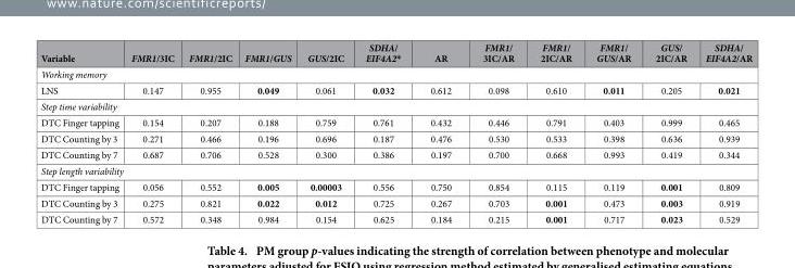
<table><thead><tr><td>Variable</td><td>FMR1/3IC</td><td>FMR1/2IC</td><td>FMR1/GUS</td><td>GUS/2IC</td><td>SDHA/ EIF4A2*</td><td>AR</td><td>FMR1/ 3IC/AR</td><td>FMR1/ 2IC/AR</td><td>FMR1/ GUS/AR</td><td>GUS/ 2IC/AR</td><td>SDHA/ EIF4A2/AR</td></tr></thead><tbody><tr><td colspan="12">Working memory</td></tr><tr><td>LNS</td><td>0.147</td><td>0.955</td><td>0.049</td><td>0.061</td><td>0.032</td><td>0.612</td><td>0.098</td><td>0.610</td><td>0.011</td><td>0.205</td><td>0.021</td></tr><tr><td colspan="12">Step time variability</td></tr><tr><td>DTC Finger tapping</td><td>0.154</td><td>0.207</td><td>0.188</td><td>0.759</td><td>0.761</td><td>0.432</td><td>0.446</td><td>0.791</td><td>0.403</td><td>0.999</td><td>0.465</td></tr><tr><td>DTC Counting by 3</td><td>0.271</td><td>0.466</td><td>0.196</td><td>0.696</td><td>0.187</td><td>0.476</td><td>0.530</td><td>0.533</td><td>0.398</td><td>0.636</td><td>0.939</td></tr><tr><td>DTC Counting by 7</td><td>0.687</td><td>0.706</td><td>0.528</td><td>0.300</td><td>0.386</td><td>0.197</td><td>0.700</td><td>0.668</td><td>0.993</td><td>0.419</td><td>0.344</td></tr><tr><td colspan="12">Step length variability</td></tr><tr><td>DTC Finger tapping</td><td>0.056</td><td>0.552</td><td>0.005</td><td>0.00003</td><td>0.556</td><td>0.750</td><td>0.854</td><td>0.115</td><td>0.119</td><td>0.001</td><td>0.809</td></tr><tr><td>DTC Counting by 3</td><td>0.275</td><td>0.821</td><td>0.022</td><td>0.012</td><td>0.725</td><td>0.267</td><td>0.703</td><td>0.001</td><td>0.473</td><td>0.003</td><td>0.919</td></tr><tr><td>DTC Counting by 7</td><td>0.572</td><td>0.348</td><td>0.984</td><td>0.154</td><td>0.625</td><td>0.184</td><td>0.215</td><td>0.001</td><td>0.717</td><td>0.023</td><td>0.529</td></tr></tbody></table>